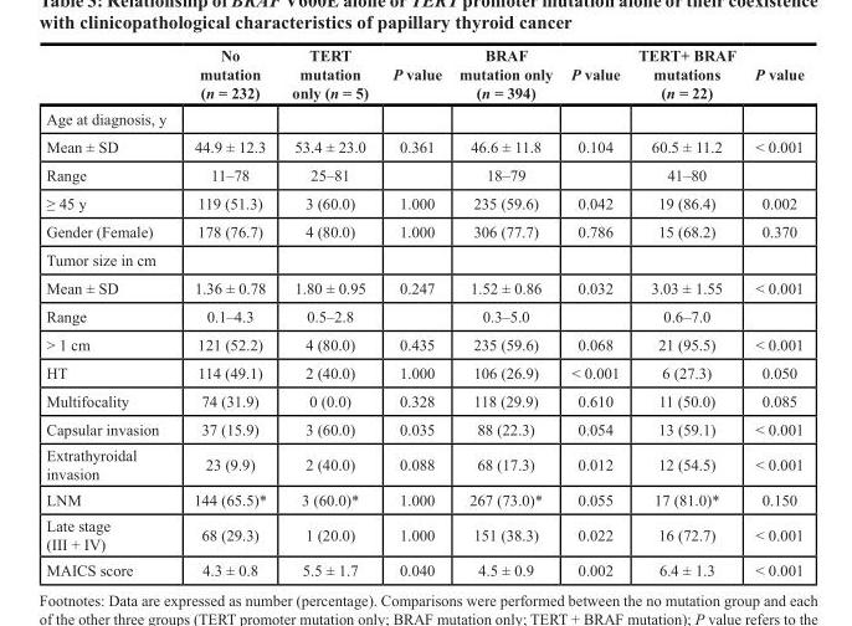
<table><thead><tr><td></td><td>No mutation (n = 232)</td><td>TERT mutation only (n = 5)</td><td>P value</td><td>BRAF mutation only (n = 394)</td><td>P value</td><td>TERT+ BRAF mutations (n = 22)</td><td>P value</td></tr></thead><tbody><tr><td colspan="8">Age at diagnosis, y</td></tr><tr><td>Mean ± SD</td><td>44.9 ± 12.3</td><td>53.4 ± 23.0</td><td>0.361</td><td>46.6 ± 11.8</td><td>0.104</td><td>60.5 ± 11.2</td><td>&lt; 0.001</td></tr><tr><td>Range</td><td>11–78</td><td>25–81</td><td></td><td>18–79</td><td></td><td>41–80</td><td></td></tr><tr><td>≥ 45 y</td><td>119 (51.3)</td><td>3 (60.0)</td><td>1.000</td><td>235 (59.6)</td><td>0.042</td><td>19 (86.4)</td><td>0.002</td></tr><tr><td>Gender (Female)</td><td>178 (76.7)</td><td>4 (80.0)</td><td>1.000</td><td>306 (77.7)</td><td>0.786</td><td>15 (68.2)</td><td>0.370</td></tr><tr><td colspan="8">Tumor size in cm</td></tr><tr><td>Mean ± SD</td><td>1.36 ± 0.78</td><td>1.80 ± 0.95</td><td>0.247</td><td>1.52 ± 0.86</td><td>0.032</td><td>3.03 ± 1.55</td><td>&lt; 0.001</td></tr><tr><td>Range</td><td>0.1–4.3</td><td>0.5–2.8</td><td></td><td>0.3–5.0</td><td></td><td>0.6–7.0</td><td></td></tr><tr><td>&gt; 1 cm</td><td>121 (52.2)</td><td>4 (80.0)</td><td>0.435</td><td>235 (59.6)</td><td>0.068</td><td>21 (95.5)</td><td>&lt; 0.001</td></tr><tr><td>HT</td><td>114 (49.1)</td><td>2 (40.0)</td><td>1.000</td><td>106 (26.9)</td><td>&lt; 0.001</td><td>6 (27.3)</td><td>0.050</td></tr><tr><td>Multifocality</td><td>74 (31.9)</td><td>0 (0.0)</td><td>0.328</td><td>118 (29.9)</td><td>0.610</td><td>11 (50.0)</td><td>0.085</td></tr><tr><td>Capsular invasion</td><td>37 (15.9)</td><td>3 (60.0)</td><td>0.035</td><td>88 (22.3)</td><td>0.054</td><td>13 (59.1)</td><td>&lt; 0.001</td></tr><tr><td>Extrathyroidal invasion</td><td>23 (9.9)</td><td>2 (40.0)</td><td>0.088</td><td>68 (17.3)</td><td>0.012</td><td>12 (54.5)</td><td>&lt; 0.001</td></tr><tr><td>LNM</td><td>144 (65.5)*</td><td>3 (60.0)*</td><td>1.000</td><td>267 (73.0)*</td><td>0.055</td><td>17 (81.0)*</td><td>0.150</td></tr><tr><td>Late stage (III + IV)</td><td>68 (29.3)</td><td>1 (20.0)</td><td>1.000</td><td>151 (38.3)</td><td>0.022</td><td>16 (72.7)</td><td>&lt; 0.001</td></tr><tr><td>MAICS score</td><td>4.3 ± 0.8</td><td>5.5 ± 1.7</td><td>0.040</td><td>4.5 ± 0.9</td><td>0.002</td><td>6.4 ± 1.3</td><td>&lt; 0.001</td></tr></tbody></table>